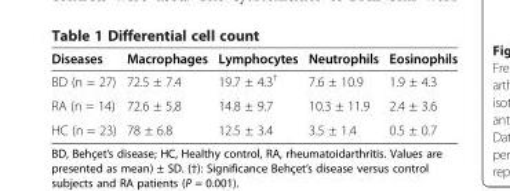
<table><thead><tr><td>Diseases</td><td>Macrophages</td><td>Lymphocytes</td><td>Neutrophils</td><td>Eosinophils</td></tr></thead><tbody><tr><td>BD (n = 27)</td><td>72.5 ± 7.4</td><td>19.7 ± 4.3<sup>†</sup></td><td>7.6 ± 10.9</td><td>1.9 ± 4.3</td></tr><tr><td>RA (n = 14)</td><td>72.6 ± 5,8</td><td>14.8 ± 9.7</td><td>10.3 ± 11.9</td><td>2.4 ± 3.6</td></tr><tr><td>HC (n = 23)</td><td>78 ± 6.8</td><td>12.5 ± 3.4</td><td>3.5 ± 1.4</td><td>0.5 ± 0.7</td></tr></tbody></table>